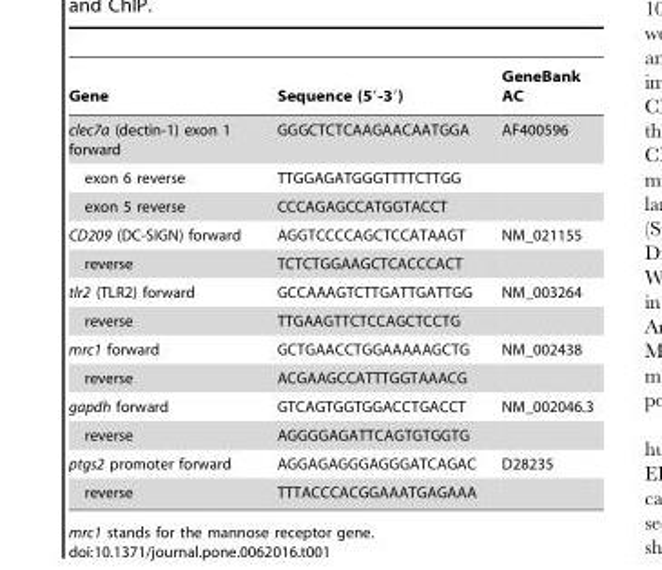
<table><thead><tr><td>Gene</td><td>Sequence (5′-3′)</td><td>GeneBank AC</td></tr></thead><tbody><tr><td>clec7a (dectin-1) exon 1 forward</td><td>GGGCTCTCAAGAACAATGGA</td><td>AF400596</td></tr><tr><td>exon 6 reverse</td><td>TTGGAGATGGGTTTTCTTGG</td><td></td></tr><tr><td>exon 5 reverse</td><td>CCCAGAGCCATGGTACCT</td><td></td></tr><tr><td>CD209 (DC-SIGN) forward</td><td>AGGTCCCCAGCTCCATAAGT</td><td>NM_021155</td></tr><tr><td>reverse</td><td>TCTCTGGAAGCTCACCCACT</td><td></td></tr><tr><td>tlr2 (TLR2) forward</td><td>GCCAAAGTCTTGATTGATTGG</td><td>NM_003264</td></tr><tr><td>reverse</td><td>TTGAAGTTCTCCAGCTCCTG</td><td></td></tr><tr><td>mrc1 forward</td><td>GCTGAACCTGGAAAAAGCTG</td><td>NM_002438</td></tr><tr><td>reverse</td><td>ACGAAGCCATTTGGTAAACG</td><td></td></tr><tr><td>gapdh forward</td><td>GTCAGTGGTGGACCTGACCT</td><td>NM_002046.3</td></tr><tr><td>reverse</td><td>AGGGGAGATTCAGTGTGGTG</td><td></td></tr><tr><td>ptgs2 promoter forward</td><td>AGGAGAGGGAGGGATCAGAC</td><td>D28235</td></tr><tr><td>reverse</td><td>TTTACCCACGGAAATGAGAAA</td><td></td></tr></tbody></table>